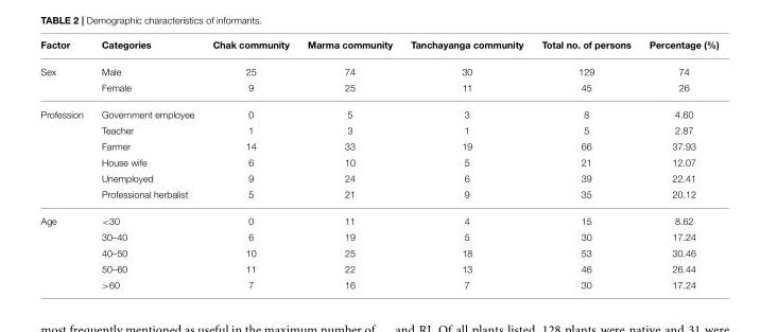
<table><thead><tr><td>Factor</td><td>Categories</td><td>Chak community</td><td>Marma community</td><td>Tanchayanga community</td><td>Total no. of persons</td><td>Percentage (%)</td></tr></thead><tbody><tr><td rowspan="2">Sex</td><td>Male</td><td>25</td><td>74</td><td>30</td><td>129</td><td>74</td></tr><tr><td>Female</td><td>9</td><td>25</td><td>11</td><td>45</td><td>26</td></tr><tr><td rowspan="6">Profession</td><td>Government employee</td><td>0</td><td>5</td><td>3</td><td>8</td><td>4.60</td></tr><tr><td>Teacher</td><td>1</td><td>3</td><td>1</td><td>5</td><td>2.87</td></tr><tr><td>Farmer</td><td>14</td><td>33</td><td>19</td><td>66</td><td>37.93</td></tr><tr><td>House wife</td><td>6</td><td>10</td><td>5</td><td>21</td><td>12.07</td></tr><tr><td>Unemployed</td><td>9</td><td>24</td><td>6</td><td>39</td><td>22.41</td></tr><tr><td>Professional herbalist</td><td>5</td><td>21</td><td>9</td><td>35</td><td>20.12</td></tr><tr><td rowspan="5">Age</td><td>&lt;30</td><td>0</td><td>11</td><td>4</td><td>15</td><td>8.62</td></tr><tr><td>30–40</td><td>6</td><td>19</td><td>5</td><td>30</td><td>17.24</td></tr><tr><td>40–50</td><td>10</td><td>25</td><td>18</td><td>53</td><td>30.46</td></tr><tr><td>50–60</td><td>11</td><td>22</td><td>13</td><td>46</td><td>26.44</td></tr><tr><td>&gt;60</td><td>7</td><td>16</td><td>7</td><td>30</td><td>17.24</td></tr></tbody></table>